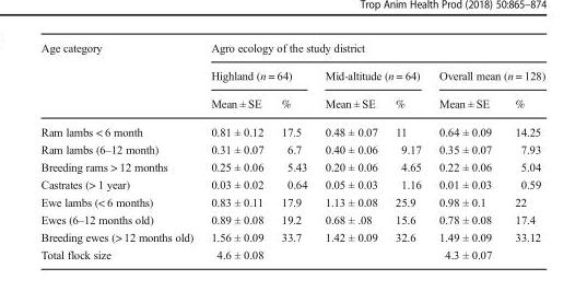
<table><thead><tr><td rowspan="3">Age category</td><td colspan="6">Agro ecology of the study district</td></tr><tr><td colspan="2">Highland (n = 64)</td><td colspan="2">Mid-altitude (n = 64)</td><td colspan="2">Overall mean (n = 128)</td></tr><tr><td>Mean ± SE</td><td>%</td><td>Mean ± SE</td><td>%</td><td>Mean ± SE</td><td>%</td></tr></thead><tbody><tr><td>Ram lambs &lt; 6 month</td><td>0.81 ± 0.12</td><td>17.5</td><td>0.48 ± 0.07</td><td>11</td><td>0.64 ± 0.09</td><td>14.25</td></tr><tr><td>Ram lambs (6–12 month)</td><td>0.31 ± 0.07</td><td>6.7</td><td>0.40 ± 0.06</td><td>9.17</td><td>0.35 ± 0.07</td><td>7.93</td></tr><tr><td>Breeding rams &gt; 12 months</td><td>0.25 ± 0.06</td><td>5.43</td><td>0.20 ± 0.06</td><td>4.65</td><td>0.22 ± 0.06</td><td>5.04</td></tr><tr><td>Castrates (&gt; 1 year)</td><td>0.03 ± 0.02</td><td>0.64</td><td>0.05 ± 0.03</td><td>1.16</td><td>0.01 ± 0.03</td><td>0.59</td></tr><tr><td>Ewe lambs (&lt; 6 months)</td><td>0.83 ± 0.11</td><td>17.9</td><td>1.13 ± 0.08</td><td>25.9</td><td>0.98 ± 0.1</td><td>22</td></tr><tr><td>Ewes (6–12 months old)</td><td>0.89 ± 0.08</td><td>19.2</td><td>0.68 ± .08</td><td>15.6</td><td>0.78 ± 0.08</td><td>17.4</td></tr><tr><td>Breeding ewes (&gt; 12 months old)</td><td>1.56 ± 0.09</td><td>33.7</td><td>1.42 ± 0.09</td><td>32.6</td><td>1.49 ± 0.09</td><td>33.12</td></tr><tr><td>Total flock size</td><td>4.6 ± 0.08</td><td></td><td></td><td></td><td>4.3 ± 0.07</td><td></td></tr></tbody></table>